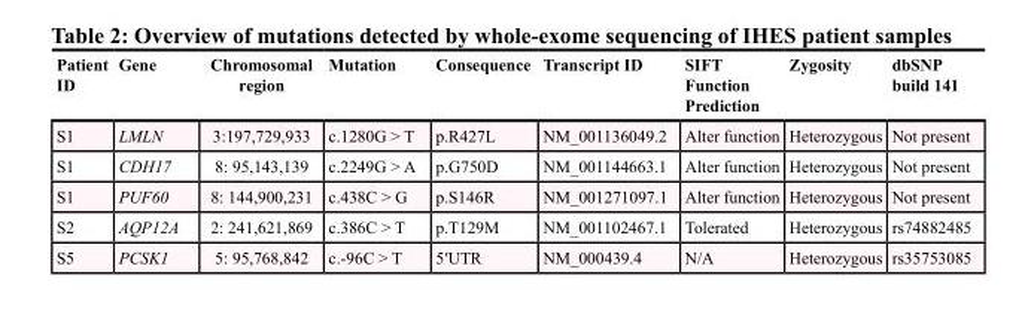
<table><thead><tr><td>Patient ID</td><td>Gene</td><td>Chromosomal region</td><td>Mutation</td><td>Consequence</td><td>Transcript ID</td><td>SIFT Function Prediction</td><td>Zygosity</td><td>dbSNP build 141</td></tr></thead><tbody><tr><td>S1</td><td>LMLN</td><td>3:197,729,933</td><td>c.1280G &gt; T</td><td>p.R427L</td><td>NM_001136049.2</td><td>Alter function</td><td>Heterozygous</td><td>Not present</td></tr><tr><td>S1</td><td>CDH17</td><td>8: 95,143,139</td><td>c.2249G &gt; A</td><td>p.G750D</td><td>NM_001144663.1</td><td>Alter function</td><td>Heterozygous</td><td>Not present</td></tr><tr><td>S1</td><td>PUF60</td><td>8: 144,900,231</td><td>c.438C &gt; G</td><td>p.S146R</td><td>NM_001271097.1</td><td>Alter function</td><td>Heterozygous</td><td>Not present</td></tr><tr><td>S2</td><td>AQP12A</td><td>2: 241,621,869</td><td>c.386C &gt; T</td><td>p.T129M</td><td>NM_001102467.1</td><td>Tolerated</td><td>Heterozygous</td><td>rs74882485</td></tr><tr><td>S5</td><td>PCSK1</td><td>5: 95,768,842</td><td>c.-96C &gt; T</td><td>5′UTR</td><td>NM_000439.4</td><td>N/A</td><td>Heterozygous</td><td>rs35753085</td></tr></tbody></table>